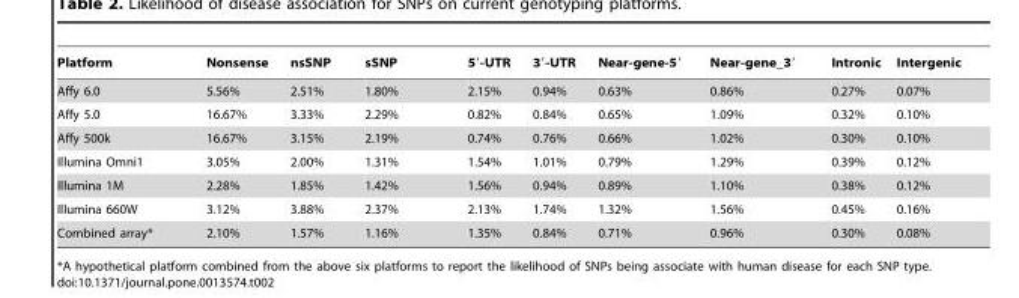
<table><thead><tr><td>Platform</td><td>Nonsense</td><td>nsSNP</td><td>sSNP</td><td>5′-UTR</td><td>3′-UTR</td><td>Near-gene-5′</td><td>Near-gene_3′</td><td>Intronic</td><td>Intergenic</td></tr></thead><tbody><tr><td>Affy 6.0</td><td>5.56%</td><td>2.51%</td><td>1.80%</td><td>2.15%</td><td>0.94%</td><td>0.63%</td><td>0.86%</td><td>0.27%</td><td>0.07%</td></tr><tr><td>Affy 5.0</td><td>16.67%</td><td>3.33%</td><td>2.29%</td><td>0.82%</td><td>0.84%</td><td>0.65%</td><td>1.09%</td><td>0.32%</td><td>0.10%</td></tr><tr><td>Affy 500k</td><td>16.67%</td><td>3.15%</td><td>2.19%</td><td>0.74%</td><td>0.76%</td><td>0.66%</td><td>1.02%</td><td>0.30%</td><td>0.10%</td></tr><tr><td>Illumina Omni1</td><td>3.05%</td><td>2.00%</td><td>1.31%</td><td>1.54%</td><td>1.01%</td><td>0.79%</td><td>1.29%</td><td>0.39%</td><td>0.12%</td></tr><tr><td>Illumina 1M</td><td>2.28%</td><td>1.85%</td><td>1.42%</td><td>1.56%</td><td>0.94%</td><td>0.89%</td><td>1.10%</td><td>0.38%</td><td>0.12%</td></tr><tr><td>Illumina 660W</td><td>3.12%</td><td>3.88%</td><td>2.37%</td><td>2.13%</td><td>1.74%</td><td>1.32%</td><td>1.56%</td><td>0.45%</td><td>0.16%</td></tr><tr><td>Combined array*</td><td>2.10%</td><td>1.57%</td><td>1.16%</td><td>1.35%</td><td>0.84%</td><td>0.71%</td><td>0.96%</td><td>0.30%</td><td>0.08%</td></tr></tbody></table>